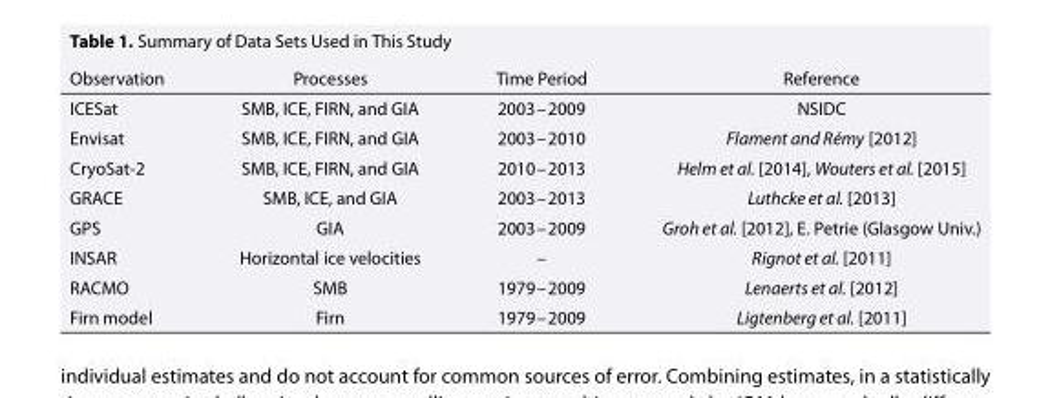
<table><thead><tr><td>Observation</td><td>Processes</td><td>Time Period</td><td>Reference</td></tr></thead><tbody><tr><td>ICESat</td><td>SMB, ICE, FIRN, and GIA</td><td>2003–2009</td><td>NSIDC</td></tr><tr><td>Envisat</td><td>SMB, ICE, FIRN, and GIA</td><td>2003–2010</td><td>Flament and Rémy [2012]</td></tr><tr><td>CryoSat-2</td><td>SMB, ICE, FIRN, and GIA</td><td>2010–2013</td><td>Helm et al. [2014], Wouters et al. [2015]</td></tr><tr><td>GRACE</td><td>SMB, ICE, and GIA</td><td>2003–2013</td><td>Luthcke et al. [2013]</td></tr><tr><td>GPS</td><td>GIA</td><td>2003–2009</td><td>Groh et al. [2012], E. Petrie (Glasgow Univ.)</td></tr><tr><td>INSAR</td><td>Horizontal ice velocities</td><td>–</td><td>Rignot et al. [2011]</td></tr><tr><td>RACMO</td><td>SMB</td><td>1979–2009</td><td>Lenaerts et al. [2012]</td></tr><tr><td>Firn model</td><td>Firn</td><td>1979–2009</td><td>Ligtenberg et al. [2011]</td></tr></tbody></table>